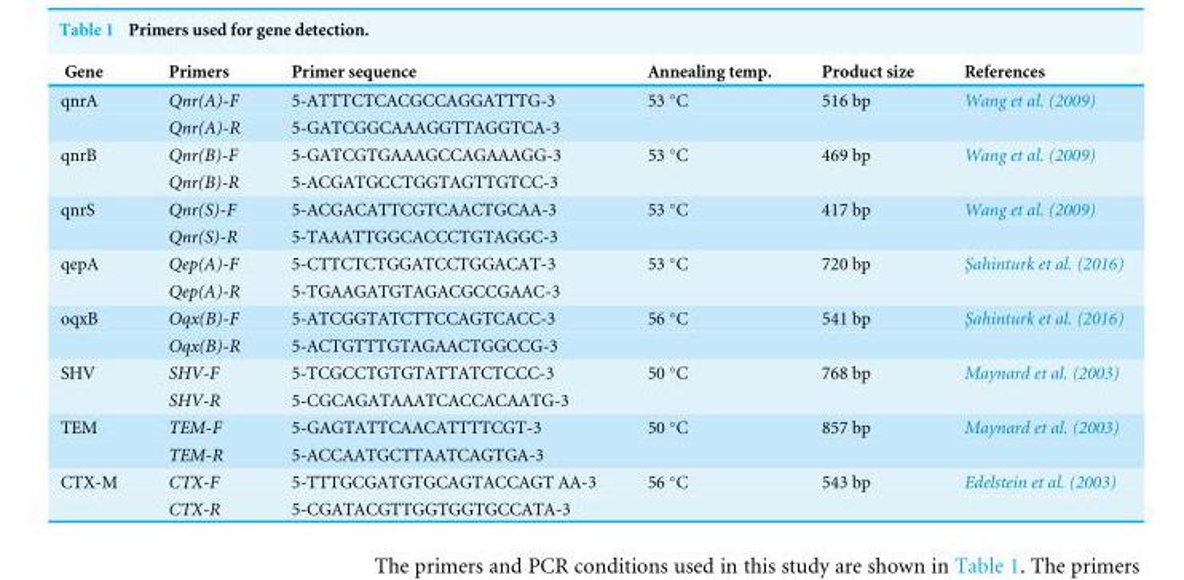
<table><thead><tr><td>Gene</td><td>Primers</td><td>Primer sequence</td><td>Annealing temp.</td><td>Product size</td><td>References</td></tr></thead><tbody><tr><td rowspan="2">qnrA</td><td>Qnr(A)-F</td><td>5-ATTTCTCACGCCAGGATTTG-3</td><td>53 ◦C</td><td>516 bp</td><td>Wang et al. (2009)</td></tr><tr><td>Qnr(A)-R</td><td>5-GATCGGCAAAGGTTAGGTCA-3</td><td></td><td></td><td></td></tr><tr><td rowspan="2">qnrB</td><td>Qnr(B)-F</td><td>5-GATCGTGAAAGCCAGAAAGG-3</td><td>53 ◦C</td><td>469 bp</td><td>Wang et al. (2009)</td></tr><tr><td>Qnr(B)-R</td><td>5-ACGATGCCTGGTAGTTGTCC-3</td><td></td><td></td><td></td></tr><tr><td rowspan="2">qnrS</td><td>Qnr(S)-F</td><td>5-ACGACATTCGTCAACTGCAA-3</td><td>53 ◦C</td><td>417 bp</td><td>Wang et al. (2009)</td></tr><tr><td>Qnr(S)-R</td><td>5-TAAATTGGCACCCTGTAGGC-3</td><td></td><td></td><td></td></tr><tr><td rowspan="2">qepA</td><td>Qep(A)-F</td><td>5-CTTCTCTGGATCCTGGACAT-3</td><td>53 ◦C</td><td>720 bp</td><td>Şahinturk et al. (2016)</td></tr><tr><td>Qep(A)-R</td><td>5-TGAAGATGTAGACGCCGAAC-3</td><td></td><td></td><td></td></tr><tr><td rowspan="2">oqxB</td><td>Oqx(B)-F</td><td>5-ATCGGTATCTTCCAGTCACC-3</td><td>56 ◦C</td><td>541 bp</td><td>Şahinturk et al. (2016)</td></tr><tr><td>Oqx(B)-R</td><td>5-ACTGTTTGTAGAACTGGCCG-3</td><td></td><td></td><td></td></tr><tr><td rowspan="2">SHV</td><td>SHV-F</td><td>5-TCGCCTGTGTATTATCTCCC-3</td><td>50 ◦C</td><td>768 bp</td><td>Maynard et al. (2003)</td></tr><tr><td>SHV-R</td><td>5-CGCAGATAAATCACCACAATG-3</td><td></td><td></td><td></td></tr><tr><td rowspan="2">TEM</td><td>TEM-F</td><td>5-GAGTATTCAACATTTTCGT-3</td><td>50 ◦C</td><td>857 bp</td><td>Maynard et al. (2003)</td></tr><tr><td>TEM-R</td><td>5-ACCAATGCTTAATCAGTGA-3</td><td></td><td></td><td></td></tr><tr><td rowspan="2">CTX-M</td><td>CTX-F</td><td>5-TTTGCGATGTGCAGTACCAGT AA-3</td><td>56 ◦C</td><td>543 bp</td><td>Edelstein et al. (2003)</td></tr><tr><td>CTX-R</td><td>5-CGATACGTTGGTGGTGCCATA-3</td><td></td><td></td><td></td></tr></tbody></table>